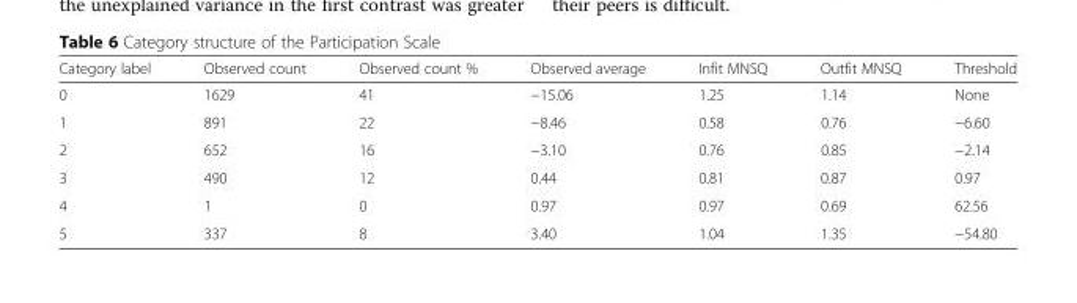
<table><thead><tr><td>Category label</td><td>Observed count</td><td>Observed count %</td><td>Observed average</td><td>Infit MNSQ</td><td>Outfit MNSQ</td><td>Threshold</td></tr></thead><tbody><tr><td>0</td><td>1629</td><td>41</td><td>−15.06</td><td>1.25</td><td>1.14</td><td>None</td></tr><tr><td>1</td><td>891</td><td>22</td><td>−8.46</td><td>0.58</td><td>0.76</td><td>−6.60</td></tr><tr><td>2</td><td>652</td><td>16</td><td>−3.10</td><td>0.76</td><td>0.85</td><td>−2.14</td></tr><tr><td>3</td><td>490</td><td>12</td><td>0.44</td><td>0.81</td><td>0.87</td><td>0.97</td></tr><tr><td>4</td><td>1</td><td>0</td><td>0.97</td><td>0.97</td><td>0.69</td><td>62.56</td></tr><tr><td>5</td><td>337</td><td>8</td><td>3.40</td><td>1.04</td><td>1.35</td><td>−54.80</td></tr></tbody></table>